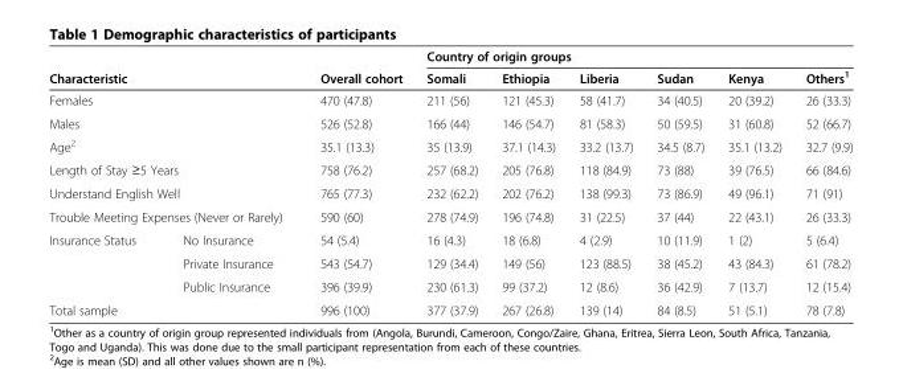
<table><thead><tr><td></td><td></td><td rowspan="2">Overall cohort</td><td colspan="6">Country of origin groups</td></tr><tr><td colspan="2">Characteristic</td><td>Somali</td><td>Ethiopia</td><td>Liberia</td><td>Sudan</td><td>Kenya</td><td>Others<sup>1</sup></td></tr></thead><tbody><tr><td colspan="2">Females</td><td>470 (47.8)</td><td>211 (56)</td><td>121 (45.3)</td><td>58 (41.7)</td><td>34 (40.5)</td><td>20 (39.2)</td><td>26 (33.3)</td></tr><tr><td colspan="2">Males</td><td>526 (52.8)</td><td>166 (44)</td><td>146 (54.7)</td><td>81 (58.3)</td><td>50 (59.5)</td><td>31 (60.8)</td><td>52 (66.7)</td></tr><tr><td colspan="2">Age<sup>2</sup></td><td>35.1 (13.3)</td><td>35 (13.9)</td><td>37.1 (14.3)</td><td>33.2 (13.7)</td><td>34.5 (8.7)</td><td>35.1 (13.2)</td><td>32.7 (9.9)</td></tr><tr><td colspan="2">Length of Stay ≥5 Years</td><td>758 (76.2)</td><td>257 (68.2)</td><td>205 (76.8)</td><td>118 (84.9)</td><td>73 (88)</td><td>39 (76.5)</td><td>66 (84.6)</td></tr><tr><td colspan="2">Understand English Well</td><td>765 (77.3)</td><td>232 (62.2)</td><td>202 (76.2)</td><td>138 (99.3)</td><td>73 (86.9)</td><td>49 (96.1)</td><td>71 (91)</td></tr><tr><td colspan="2">Trouble Meeting Expenses (Never or Rarely)</td><td>590 (60)</td><td>278 (74.9)</td><td>196 (74.8)</td><td>31 (22.5)</td><td>37 (44)</td><td>22 (43.1)</td><td>26 (33.3)</td></tr><tr><td rowspan="3">Insurance Status</td><td>No Insurance</td><td>54 (5.4)</td><td>16 (4.3)</td><td>18 (6.8)</td><td>4 (2.9)</td><td>10 (11.9)</td><td>1 (2)</td><td>5 (6.4)</td></tr><tr><td>Private Insurance</td><td>543 (54.7)</td><td>129 (34.4)</td><td>149 (56)</td><td>123 (88.5)</td><td>38 (45.2)</td><td>43 (84.3)</td><td>61 (78.2)</td></tr><tr><td>Public Insurance</td><td>396 (39.9)</td><td>230 (61.3)</td><td>99 (37.2)</td><td>12 (8.6)</td><td>36 (42.9)</td><td>7 (13.7)</td><td>12 (15.4)</td></tr><tr><td colspan="2">Total sample</td><td>996 (100)</td><td>377 (37.9)</td><td>267 (26.8)</td><td>139 (14)</td><td>84 (8.5)</td><td>51 (5.1)</td><td>78 (7.8)</td></tr></tbody></table>